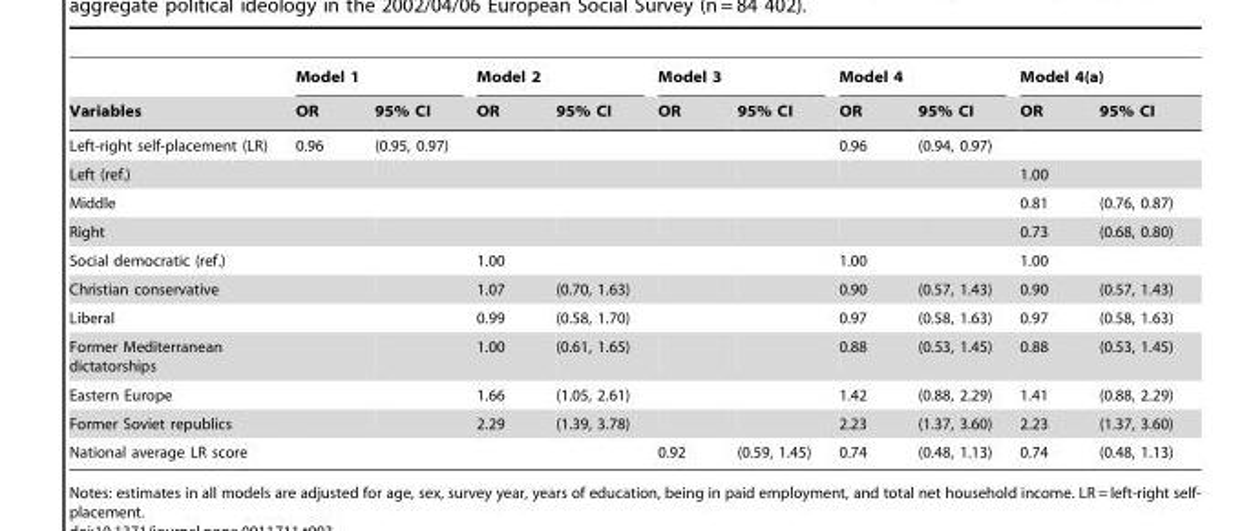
<table><thead><tr><td rowspan="2">Variables</td><td colspan="2">Model 1</td><td colspan="2">Model 2</td><td colspan="2">Model 3</td><td colspan="2">Model 4</td><td colspan="2">Model 4(a)</td></tr><tr><td>OR</td><td>95% CI</td><td>OR</td><td>95% CI</td><td>OR</td><td>95% CI</td><td>OR</td><td>95% CI</td><td>OR</td><td>95% CI</td></tr></thead><tbody><tr><td>Left-right self-placement (LR)</td><td>0.96</td><td>(0.95, 0.97)</td><td></td><td></td><td></td><td></td><td>0.96</td><td>(0.94, 0.97)</td><td></td><td></td></tr><tr><td>Left (ref.)</td><td></td><td></td><td></td><td></td><td></td><td></td><td></td><td></td><td>1.00</td><td></td></tr><tr><td>Middle</td><td></td><td></td><td></td><td></td><td></td><td></td><td></td><td></td><td>0.81</td><td>(0.76, 0.87)</td></tr><tr><td>Right</td><td></td><td></td><td></td><td></td><td></td><td></td><td></td><td></td><td>0.73</td><td>(0.68, 0.80)</td></tr><tr><td>Social democratic (ref.)</td><td></td><td></td><td>1.00</td><td></td><td></td><td></td><td>1.00</td><td></td><td>1.00</td><td></td></tr><tr><td>Christian conservative</td><td></td><td></td><td>1.07</td><td>(0.70, 1.63)</td><td></td><td></td><td>0.90</td><td>(0.57, 1.43)</td><td>0.90</td><td>(0.57, 1.43)</td></tr><tr><td>Liberal</td><td></td><td></td><td>0.99</td><td>(0.58, 1.70)</td><td></td><td></td><td>0.97</td><td>(0.58, 1.63)</td><td>0.97</td><td>(0.58, 1.63)</td></tr><tr><td>Former Mediterranean dictatorships</td><td></td><td></td><td>1.00</td><td>(0.61, 1.65)</td><td></td><td></td><td>0.88</td><td>(0.53, 1.45)</td><td>0.88</td><td>(0.53, 1.45)</td></tr><tr><td>Eastern Europe</td><td></td><td></td><td>1.66</td><td>(1.05, 2.61)</td><td></td><td></td><td>1.42</td><td>(0.88, 2.29)</td><td>1.41</td><td>(0.88, 2.29)</td></tr><tr><td>Former Soviet republics</td><td></td><td></td><td>2.29</td><td>(1.39, 3.78)</td><td></td><td></td><td>2.23</td><td>(1.37, 3.60)</td><td>2.23</td><td>(1.37, 3.60)</td></tr><tr><td>National average LR score</td><td></td><td></td><td></td><td></td><td>0.92</td><td>(0.59, 1.45)</td><td>0.74</td><td>(0.48, 1.13)</td><td>0.74</td><td>(0.48, 1.13)</td></tr></tbody></table>